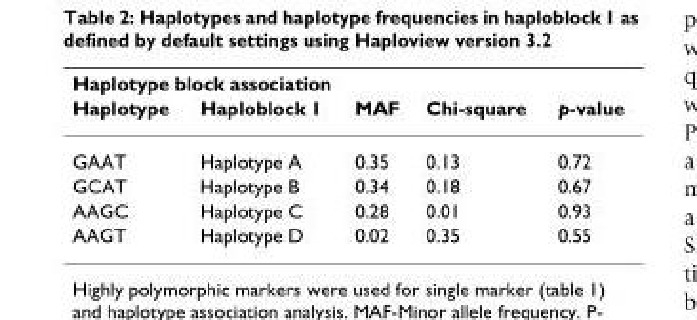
<table><thead><tr><td colspan="5">Haplotype block association</td></tr><tr><td>Haplotype</td><td>Haploblock 1</td><td>MAF</td><td>Chi-square</td><td>p-value</td></tr></thead><tbody><tr><td>GAAT</td><td>Haplotype A</td><td>0.35</td><td>0.13</td><td>0.72</td></tr><tr><td>GCAT</td><td>Haplotype B</td><td>0.34</td><td>0.18</td><td>0.67</td></tr><tr><td>AAGC</td><td>Haplotype C</td><td>0.28</td><td>0.01</td><td>0.93</td></tr><tr><td>AAGT</td><td>Haplotype D</td><td>0.02</td><td>0.35</td><td>0.55</td></tr></tbody></table>